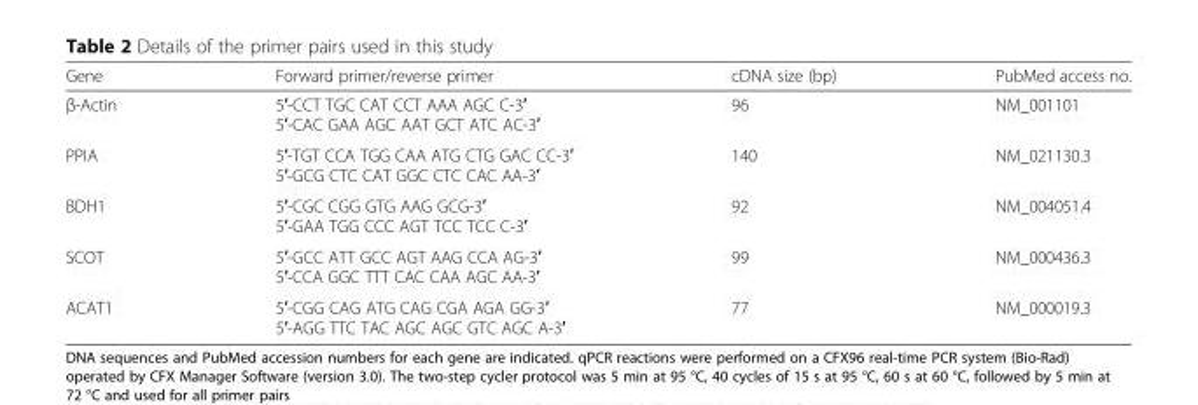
<table><thead><tr><td>Gene</td><td>Forward primer/reverse primer</td><td>cDNA size (bp)</td><td>PubMed access no.</td></tr></thead><tbody><tr><td>β-Actin</td><td>5′-CCT TGC CAT CCT AAA AGC C-3′ 5′-CAC GAA AGC AAT GCT ATC AC-3′</td><td>96</td><td>NM_001101</td></tr><tr><td>PPIA</td><td>5′-TGT CCA TGG CAA ATG CTG GAC CC-3′ 5′-GCG CTC CAT GGC CTC CAC AA-3′</td><td>140</td><td>NM_021130.3</td></tr><tr><td>BDH1</td><td>5′-CGC CGG GTG AAG GCG-3′ 5′-GAA TGG CCC AGT TCC TCC C-3′</td><td>92</td><td>NM_004051.4</td></tr><tr><td>SCOT</td><td>5′-GCC ATT GCC AGT AAG CCA AG-3′ 5′-CCA GGC TTT CAC CAA AGC AA-3′</td><td>99</td><td>NM_000436.3</td></tr><tr><td>ACAT1</td><td>5′-CGG CAG ATG CAG CGA AGA GG-3′ 5′-AGG TTC TAC AGC AGC GTC AGC A-3′</td><td>77</td><td>NM_000019.3</td></tr></tbody></table>